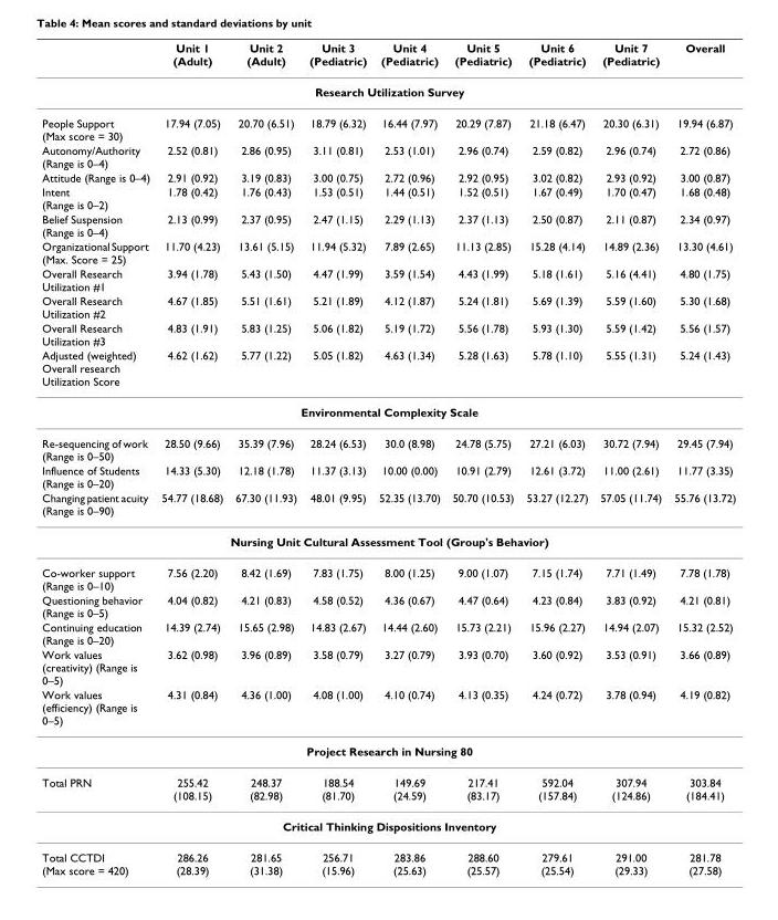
<table><thead><tr><td></td><td>Unit 1 (Adult)</td><td>Unit 2 (Adult)</td><td>Unit 3 (Pediatric)</td><td>Unit 4 (Pediatric)</td><td>Unit 5 (Pediatric)</td><td>Unit 6 (Pediatric)</td><td>Unit 7 (Pediatric)</td><td>Overall</td></tr></thead><tbody><tr><td colspan="9">Research Utilization Survey</td></tr><tr><td>People Support (Max score = 30)</td><td>17.94 (7.05)</td><td>20.70 (6.51)</td><td>18.79 (6.32)</td><td>16.44 (7.97)</td><td>20.29 (7.87)</td><td>21.18 (6.47)</td><td>20.30 (6.31)</td><td>19.94 (6.87)</td></tr><tr><td>Autonomy/Authority (Range is 0–4)</td><td>2.52 (0.81)</td><td>2.86 (0.95)</td><td>3.11 (0.81)</td><td>2.53 (1.01)</td><td>2.96 (0.74)</td><td>2.59 (0.82)</td><td>2.96 (0.74)</td><td>2.72 (0.86)</td></tr><tr><td>Attitude (Range is 0–4)</td><td>2.91 (0.92)</td><td>3.19 (0.83)</td><td>3.00 (0.75)</td><td>2.72 (0.96)</td><td>2.92 (0.95)</td><td>3.02 (0.82)</td><td>2.93 (0.92)</td><td>3.00 (0.87)</td></tr><tr><td>Intent (Range is 0–2)</td><td>1.78 (0.42)</td><td>1.76 (0.43)</td><td>1.53 (0.51)</td><td>1.44 (0.51)</td><td>1.52 (0.51)</td><td>1.67 (0.49)</td><td>1.70 (0.47)</td><td>1.68 (0.48)</td></tr><tr><td>Belief Suspension (Range is 0–4)</td><td>2.13 (0.99)</td><td>2.37 (0.95)</td><td>2.47 (1.15)</td><td>2.29 (1.13)</td><td>2.37 (1.13)</td><td>2.50 (0.87)</td><td>2.11 (0.87)</td><td>2.34 (0.97)</td></tr><tr><td>Organizational Support (Max. Score = 25)</td><td>11.70 (4.23)</td><td>13.61 (5.15)</td><td>11.94 (5.32)</td><td>7.89 (2.65)</td><td>11.13 (2.85)</td><td>15.28 (4.14)</td><td>14.89 (2.36)</td><td>13.30 (4.61)</td></tr><tr><td>Overall Research Utilization #1</td><td>3.94 (1.78)</td><td>5.43 (1.50)</td><td>4.47 (1.99)</td><td>3.59 (1.54)</td><td>4.43 (1.99)</td><td>5.18 (1.61)</td><td>5.16 (4.41)</td><td>4.80 (1.75)</td></tr><tr><td>Overall Research Utilization #2</td><td>4.67 (1.85)</td><td>5.51 (1.61)</td><td>5.21 (1.89)</td><td>4.12 (1.87)</td><td>5.24 (1.81)</td><td>5.69 (1.39)</td><td>5.59 (1.60)</td><td>5.30 (1.68)</td></tr><tr><td>Overall Research Utilization #3</td><td>4.83 (1.91)</td><td>5.83 (1.25)</td><td>5.06 (1.82)</td><td>5.19 (1.72)</td><td>5.56 (1.78)</td><td>5.93 (1.30)</td><td>5.59 (1.42)</td><td>5.56 (1.57)</td></tr><tr><td>Adjusted (weighted) Overall research Utilization Score</td><td>4.62 (1.62)</td><td>5.77 (1.22)</td><td>5.05 (1.82)</td><td>4.63 (1.34)</td><td>5.28 (1.63)</td><td>5.78 (1.10)</td><td>5.55 (1.31)</td><td>5.24 (1.43)</td></tr><tr><td colspan="9">Environmental Complexity Scale</td></tr><tr><td>Re-sequencing of work (Range is 0–50)</td><td>28.50 (9.66)</td><td>35.39 (7.96)</td><td>28.24 (6.53)</td><td>30.0 (8.98)</td><td>24.78 (5.75)</td><td>27.21 (6.03)</td><td>30.72 (7.94)</td><td>29.45 (7.94)</td></tr><tr><td>Influence of Students (Range is 0–20)</td><td>14.33 (5.30)</td><td>12.18 (1.78)</td><td>11.37 (3.13)</td><td>10.00 (0.00)</td><td>10.91 (2.79)</td><td>12.61 (3.72)</td><td>11.00 (2.61)</td><td>11.77 (3.35)</td></tr><tr><td>Changing patient acuity (Range is 0–90)</td><td>54.77 (18.68)</td><td>67.30 (11.93)</td><td>48.01 (9.95)</td><td>52.35 (13.70)</td><td>50.70 (10.53)</td><td>53.27 (12.27)</td><td>57.05 (11.74)</td><td>55.76 (13.72)</td></tr><tr><td colspan="9">Nursing Unit Cultural Assessment Tool (Group&#x27;s Behavior)</td></tr><tr><td>Co-worker support (Range is 0–10)</td><td>7.56 (2.20)</td><td>8.42 (1.69)</td><td>7.83 (1.75)</td><td>8.00 (1.25)</td><td>9.00 (1.07)</td><td>7.15 (1.74)</td><td>7.71 (1.49)</td><td>7.78 (1.78)</td></tr><tr><td>Questioning behavior (Range is 0–5)</td><td>4.04 (0.82)</td><td>4.21 (0.83)</td><td>4.58 (0.52)</td><td>4.36 (0.67)</td><td>4.47 (0.64)</td><td>4.23 (0.84)</td><td>3.83 (0.92)</td><td>4.21 (0.81)</td></tr><tr><td>Continuing education (Range is 0–20)</td><td>14.39 (2.74)</td><td>15.65 (2.98)</td><td>14.83 (2.67)</td><td>14.44 (2.60)</td><td>15.73 (2.21)</td><td>15.96 (2.27)</td><td>14.94 (2.07)</td><td>15.32 (2.52)</td></tr><tr><td>Work values (creativity) (Range is 0–5)</td><td>3.62 (0.98)</td><td>3.96 (0.89)</td><td>3.58 (0.79)</td><td>3.27 (0.79)</td><td>3.93 (0.70)</td><td>3.60 (0.92)</td><td>3.53 (0.91)</td><td>3.66 (0.89)</td></tr><tr><td>Work values (efficiency) (Range is 0–5)</td><td>4.31 (0.84)</td><td>4.36 (1.00)</td><td>4.08 (1.00)</td><td>4.10 (0.74)</td><td>4.13 (0.35)</td><td>4.24 (0.72)</td><td>3.78 (0.94)</td><td>4.19 (0.82)</td></tr><tr><td colspan="9">Project Research in Nursing 80</td></tr><tr><td>Total PRN</td><td>255.42 (108.15)</td><td>248.37 (82.98)</td><td>188.54 (81.70)</td><td>149.69 (24.59)</td><td>217.41 (83.17)</td><td>592.04 (157.84)</td><td>307.94 (124.86)</td><td>303.84 (184.41)</td></tr><tr><td colspan="9">Critical Thinking Dispositions Inventory</td></tr><tr><td>Total CCTDI (Max score = 420)</td><td>286.26 (28.39)</td><td>281.65 (31.38)</td><td>256.71 (15.96)</td><td>283.86 (25.63)</td><td>288.60 (25.57)</td><td>279.61 (25.54)</td><td>291.00 (29.33)</td><td>281.78 (27.58)</td></tr></tbody></table>